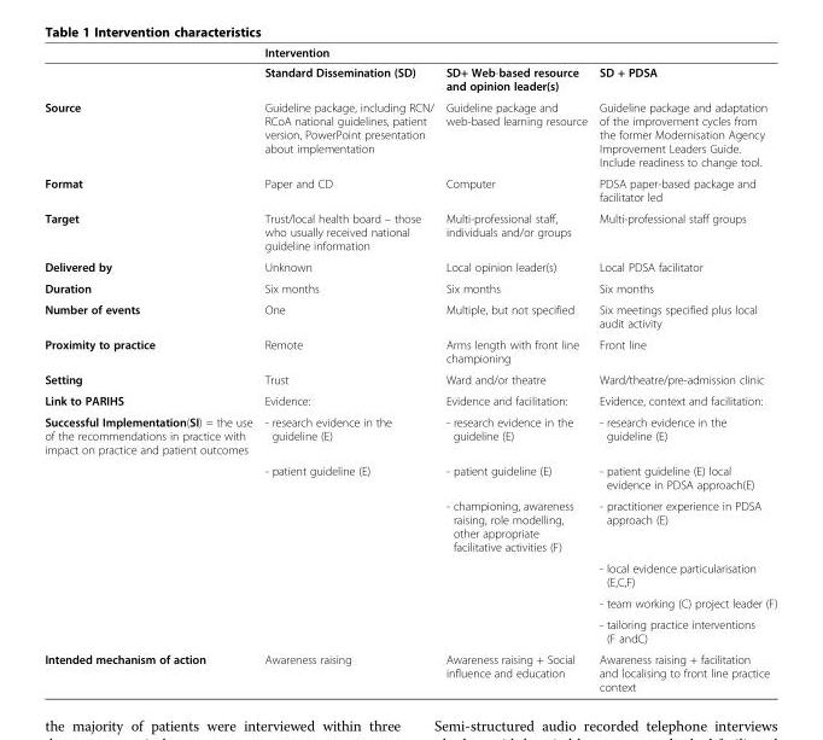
<table><thead><tr><td rowspan="2"></td><td colspan="3">Intervention</td></tr><tr><td>Standard Dissemination (SD)</td><td>SD+ Web-based resource and opinion leader(s)</td><td>SD + PDSA</td></tr></thead><tbody><tr><td>Source</td><td>Guideline package, including RCN/ RCoA national guidelines, patient version, PowerPoint presentation about implementation</td><td>Guideline package and web-based learning resource</td><td>Guideline package and adaptation of the improvement cycles from the former Modernisation Agency Improvement Leaders Guide. Include readiness to change tool.</td></tr><tr><td>Format</td><td>Paper and CD</td><td>Computer</td><td>PDSA paper-based package and facilitator led</td></tr><tr><td>Target</td><td>Trust/local health board – those who usually received national guideline information</td><td>Multi-professional staff, individuals and/or groups</td><td>Multi-professional staff groups</td></tr><tr><td>Delivered by</td><td>Unknown</td><td>Local opinion leader(s)</td><td>Local PDSA facilitator</td></tr><tr><td>Duration</td><td>Six months</td><td>Six months</td><td>Six months</td></tr><tr><td>Number of events</td><td>One</td><td>Multiple, but not specified</td><td>Six meetings specified plus local audit activity</td></tr><tr><td>Proximity to practice</td><td>Remote</td><td>Arms length with front line championing</td><td>Front line</td></tr><tr><td>Setting</td><td>Trust</td><td>Ward and/or theatre</td><td>Ward/theatre/pre-admission clinic</td></tr><tr><td>Link to PARIHS</td><td>Evidence:</td><td>Evidence and facilitation:</td><td>Evidence, context and facilitation:</td></tr><tr><td rowspan="6">Successful Implementation(SI) = the use of the recommendations in practice with impact on practice and patient outcomes</td><td>- research evidence in the guideline (E)</td><td>- research evidence in the guideline (E)</td><td>- research evidence in the guideline (E)</td></tr><tr><td>- patient guideline (E)</td><td>- patient guideline (E)</td><td>- patient guideline (E) local evidence in PDSA approach(E)</td></tr><tr><td></td><td>- championing, awareness raising, role modelling, other appropriate facilitative activities (F)</td><td>- practitioner experience in PDSA approach (E)</td></tr><tr><td></td><td></td><td>- local evidence particularisation (E,C,F)</td></tr><tr><td></td><td></td><td>- team working (C) project leader (F)</td></tr><tr><td></td><td></td><td>- tailoring practice interventions (F andC)</td></tr><tr><td>Intended mechanism of action</td><td>Awareness raising</td><td>Awareness raising + Social influence and education</td><td>Awareness raising + facilitation and localising to front line practice context</td></tr></tbody></table>